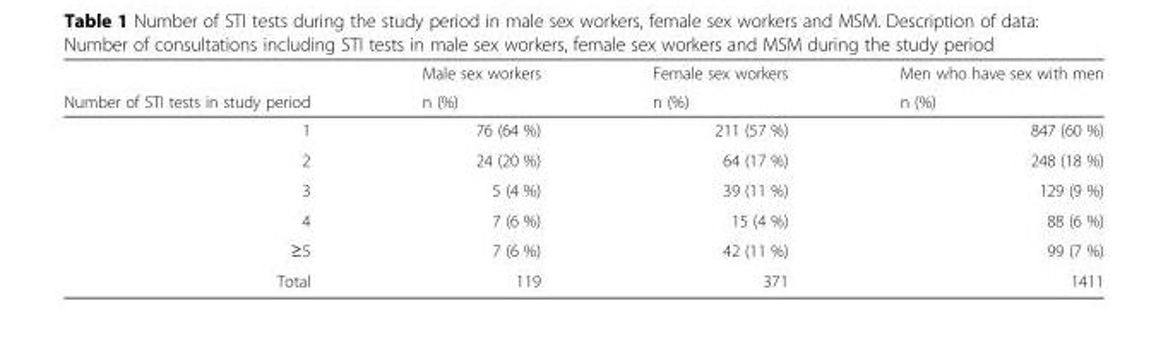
<table><thead><tr><td rowspan="2">Number of STI tests in study period</td><td rowspan="2">Male sex workers n (%)</td><td rowspan="2">Female sex workers n (%)</td><td rowspan="2">Men who have sex with men n (%)</td></tr><tr></tr></thead><tbody><tr><td>1</td><td>76 (64 %)</td><td>211 (57 %)</td><td>847 (60 %)</td></tr><tr><td>2</td><td>24 (20 %)</td><td>64 (17 %)</td><td>248 (18 %)</td></tr><tr><td>3</td><td>5 (4 %)</td><td>39 (11 %)</td><td>129 (9 %)</td></tr><tr><td>4</td><td>7 (6 %)</td><td>15 (4 %)</td><td>88 (6 %)</td></tr><tr><td>≥5</td><td>7 (6 %)</td><td>42 (11 %)</td><td>99 (7 %)</td></tr><tr><td>Total</td><td>119</td><td>371</td><td>1411</td></tr></tbody></table>